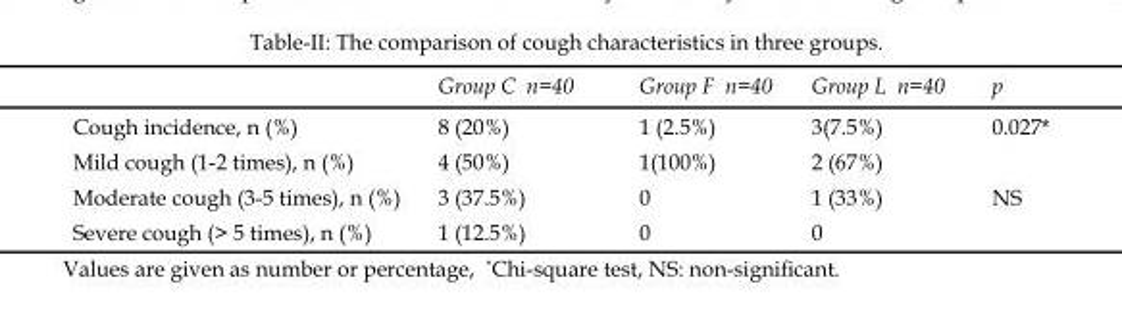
<table><thead><tr><td></td><td>Group C n=40</td><td>Group F n=40</td><td>Group L n=40</td><td>p</td></tr></thead><tbody><tr><td>Cough incidence, n (%)</td><td>8 (20%)</td><td>1 (2.5%)</td><td>3(7.5%)</td><td>0.027*</td></tr><tr><td>Mild cough (1-2 times), n (%)</td><td>4 (50%)</td><td>1(100%)</td><td>2 (67%)</td><td rowspan="3">NS</td></tr><tr><td>Moderate cough (3-5 times), n (%)</td><td>3 (37.5%)</td><td>0</td><td>1 (33%)</td></tr><tr><td>Severe cough (&gt; 5 times), n (%)</td><td>1 (12.5%)</td><td>0</td><td>0</td></tr></tbody></table>